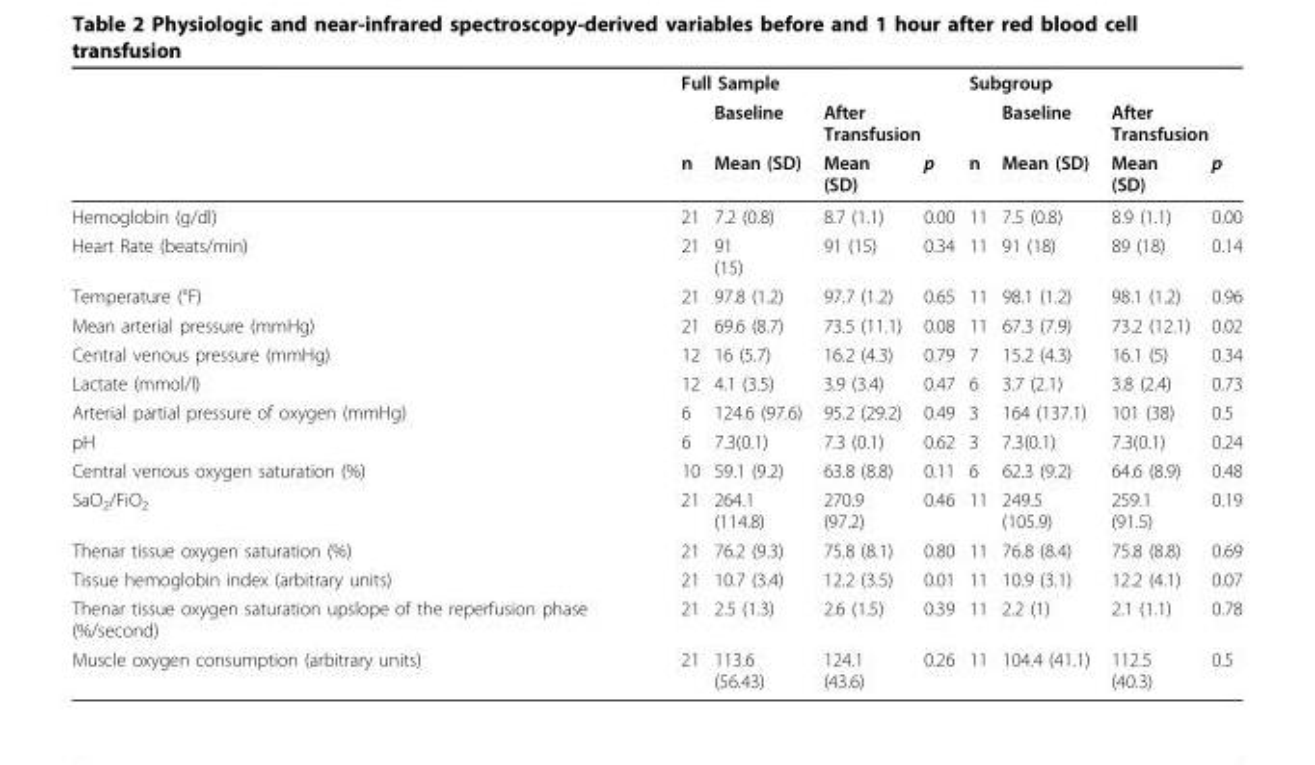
<table><thead><tr><td rowspan="3"></td><td colspan="4">Full Sample</td><td colspan="4">Subgroup</td></tr><tr><td rowspan="2">n</td><td rowspan="2">Baseline Mean (SD)</td><td colspan="2">After Transfusion</td><td rowspan="2">n</td><td rowspan="2">Baseline Mean (SD)</td><td colspan="2">After Transfusion</td></tr><tr><td>Mean (SD)</td><td>p</td><td>Mean (SD)</td><td>p</td></tr></thead><tbody><tr><td>Hemoglobin (g/dl)</td><td>21</td><td>7.2 (0.8)</td><td>8.7 (1.1)</td><td>0.00</td><td>11</td><td>7.5 (0.8)</td><td>8.9 (1.1)</td><td>0.00</td></tr><tr><td>Heart Rate (beats/min)</td><td>21</td><td>91 (15)</td><td>91 (15)</td><td>0.34</td><td>11</td><td>91 (18)</td><td>89 (18)</td><td>0.14</td></tr><tr><td>Temperature (°F)</td><td>21</td><td>97.8 (1.2)</td><td>97.7 (1.2)</td><td>0.65</td><td>11</td><td>98.1 (1.2)</td><td>98.1 (1.2)</td><td>0.96</td></tr><tr><td>Mean arterial pressure (mmHg)</td><td>21</td><td>69.6 (8.7)</td><td>73.5 (11.1)</td><td>0.08</td><td>11</td><td>67.3 (7.9)</td><td>73.2 (12.1)</td><td>0.02</td></tr><tr><td>Central venous pressure (mmHg)</td><td>12</td><td>16 (5.7)</td><td>16.2 (4.3)</td><td>0.79</td><td>7</td><td>15.2 (4.3)</td><td>16.1 (5)</td><td>0.34</td></tr><tr><td>Lactate (mmol/l)</td><td>12</td><td>4.1 (3.5)</td><td>3.9 (3.4)</td><td>0.47</td><td>6</td><td>3.7 (2.1)</td><td>3.8 (2.4)</td><td>0.73</td></tr><tr><td>Arterial partial pressure of oxygen (mmHg)</td><td>6</td><td>124.6 (97.6)</td><td>95.2 (29.2)</td><td>0.49</td><td>3</td><td>164 (137.1)</td><td>101 (38)</td><td>0.5</td></tr><tr><td>pH</td><td>6</td><td>7.3(0.1)</td><td>7.3 (0.1)</td><td>0.62</td><td>3</td><td>7.3(0.1)</td><td>7.3(0.1)</td><td>0.24</td></tr><tr><td>Central venous oxygen saturation (%)</td><td>10</td><td>59.1 (9.2)</td><td>63.8 (8.8)</td><td>0.11</td><td>6</td><td>62.3 (9.2)</td><td>64.6 (8.9)</td><td>0.48</td></tr><tr><td>SaO<sub>2</sub>/FiO<sub>2</sub></td><td>21</td><td>264.1 (114.8)</td><td>270.9 (97.2)</td><td>0.46</td><td>11</td><td>249.5 (105.9)</td><td>259.1 (91.5)</td><td>0.19</td></tr><tr><td>Thenar tissue oxygen saturation (%)</td><td>21</td><td>76.2 (9.3)</td><td>75.8 (8.1)</td><td>0.80</td><td>11</td><td>76.8 (8.4)</td><td>75.8 (8.8)</td><td>0.69</td></tr><tr><td>Tissue hemoglobin index (arbitrary units)</td><td>21</td><td>10.7 (3.4)</td><td>12.2 (3.5)</td><td>0.01</td><td>11</td><td>10.9 (3.1)</td><td>12.2 (4.1)</td><td>0.07</td></tr><tr><td>Thenar tissue oxygen saturation upslope of the reperfusion phase (%/second)</td><td>21</td><td>2.5 (1.3)</td><td>2.6 (1.5)</td><td>0.39</td><td>11</td><td>2.2 (1)</td><td>2.1 (1.1)</td><td>0.78</td></tr><tr><td>Muscle oxygen consumption (arbitrary units)</td><td>21</td><td>113.6 (56.43)</td><td>124.1 (43.6)</td><td>0.26</td><td>11</td><td>104.4 (41.1)</td><td>112.5 (40.3)</td><td>0.5</td></tr></tbody></table>